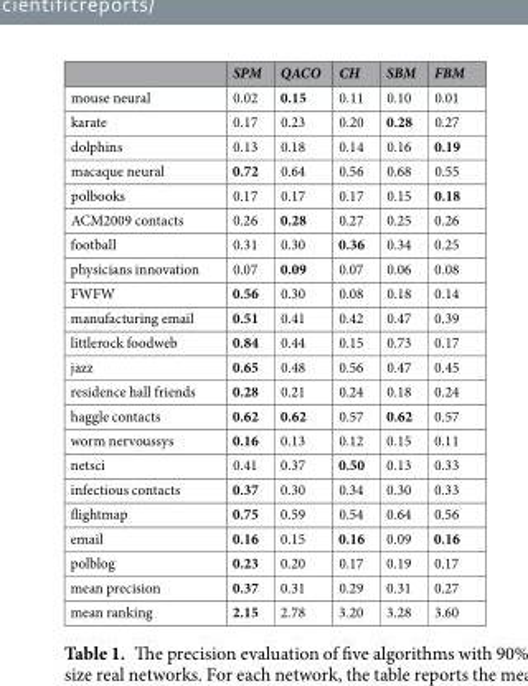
<table><thead><tr><td></td><td>SPM</td><td>QACO</td><td>CH</td><td>SBM</td><td>FBM</td></tr></thead><tbody><tr><td>mouse neural</td><td>0.02</td><td>0.15</td><td>0.11</td><td>0.10</td><td>0.01</td></tr><tr><td>karate</td><td>0.17</td><td>0.23</td><td>0.20</td><td>0.28</td><td>0.27</td></tr><tr><td>dolphins</td><td>0.13</td><td>0.18</td><td>0.14</td><td>0.16</td><td>0.19</td></tr><tr><td>macaque neural</td><td>0.72</td><td>0.64</td><td>0.56</td><td>0.68</td><td>0.55</td></tr><tr><td>polbooks</td><td>0.17</td><td>0.17</td><td>0.17</td><td>0.15</td><td>0.18</td></tr><tr><td>ACM2009 contacts</td><td>0.26</td><td>0.28</td><td>0.27</td><td>0.25</td><td>0.26</td></tr><tr><td>football</td><td>0.31</td><td>0.30</td><td>0.36</td><td>0.34</td><td>0.25</td></tr><tr><td>physicians innovation</td><td>0.07</td><td>0.09</td><td>0.07</td><td>0.06</td><td>0.08</td></tr><tr><td>FWFW</td><td>0.56</td><td>0.30</td><td>0.08</td><td>0.18</td><td>0.14</td></tr><tr><td>manufacturing email</td><td>0.51</td><td>0.41</td><td>0.42</td><td>0.47</td><td>0.39</td></tr><tr><td>littlerock foodweb</td><td>0.84</td><td>0.44</td><td>0.15</td><td>0.73</td><td>0.17</td></tr><tr><td>jazz</td><td>0.65</td><td>0.48</td><td>0.56</td><td>0.47</td><td>0.45</td></tr><tr><td>residence hall friends</td><td>0.28</td><td>0.21</td><td>0.24</td><td>0.18</td><td>0.24</td></tr><tr><td>haggle contacts</td><td>0.62</td><td>0.62</td><td>0.57</td><td>0.62</td><td>0.57</td></tr><tr><td>worm nervoussys</td><td>0.16</td><td>0.13</td><td>0.12</td><td>0.15</td><td>0.11</td></tr><tr><td>netsci</td><td>0.41</td><td>0.37</td><td>0.50</td><td>0.13</td><td>0.33</td></tr><tr><td>infectious contacts</td><td>0.37</td><td>0.30</td><td>0.34</td><td>0.30</td><td>0.33</td></tr><tr><td>flightmap</td><td>0.75</td><td>0.59</td><td>0.54</td><td>0.64</td><td>0.56</td></tr><tr><td>email</td><td>0.16</td><td>0.15</td><td>0.16</td><td>0.09</td><td>0.16</td></tr><tr><td>polblog</td><td>0.23</td><td>0.20</td><td>0.17</td><td>0.19</td><td>0.17</td></tr><tr><td>mean precision</td><td>0.37</td><td>0.31</td><td>0.29</td><td>0.31</td><td>0.27</td></tr><tr><td>mean ranking</td><td>2.15</td><td>2.78</td><td>3.20</td><td>3.28</td><td>3.60</td></tr></tbody></table>